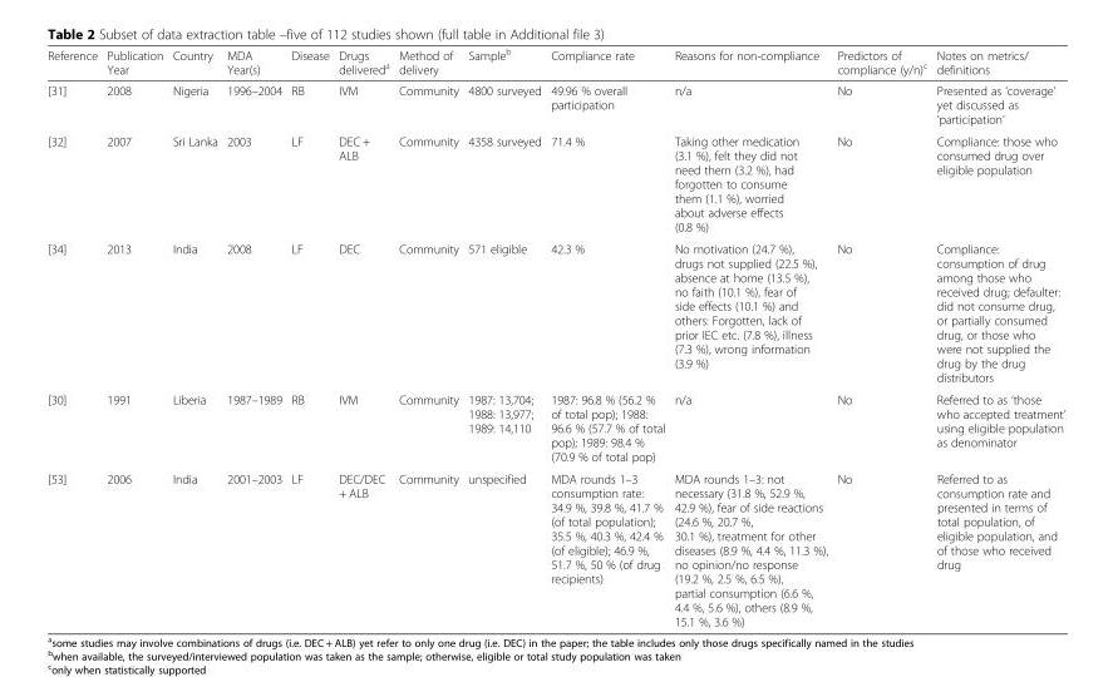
<table><thead><tr><td>Reference</td><td>Publication Year</td><td>Country</td><td>MDA Year(s)</td><td>Disease</td><td>Drugs delivered<sup>a</sup></td><td>Method of delivery</td><td>Sample<sup>b</sup></td><td>Compliance rate</td><td>Reasons for non-compliance</td><td>Predictors of compliance (y/n)<sup>c</sup></td><td>Notes on metrics/ definitions</td></tr></thead><tbody><tr><td>[31]</td><td>2008</td><td>Nigeria</td><td>1996–2004</td><td>RB</td><td>IVM</td><td>Community</td><td>4800 surveyed</td><td>49.96 % overall participation</td><td>n/a</td><td>No</td><td>Presented as ‘coverage’ yet discussed as ‘participation’</td></tr><tr><td>[32]</td><td>2007</td><td>Sri Lanka</td><td>2003</td><td>LF</td><td>DEC + ALB</td><td>Community</td><td>4358 surveyed</td><td>71.4 %</td><td>Taking other medication (3.1 %), felt they did not need them (3.2 %), had forgotten to consume them (1.1 %), worried about adverse effects (0.8 %)</td><td>No</td><td>Compliance: those who consumed drug over eligible population</td></tr><tr><td>[34]</td><td>2013</td><td>India</td><td>2008</td><td>LF</td><td>DEC</td><td>Community</td><td>571 eligible</td><td>42.3 %</td><td>No motivation (24.7 %), drugs not supplied (22.5 %), absence at home (13.5 %), no faith (10.1 %), fear of side effects (10.1 %) and others: Forgotten, lack of prior IEC etc. (7.8 %), illness (7.3 %), wrong information (3.9 %)</td><td>No</td><td>Compliance: consumption of drug among those who received drug; defaulter: did not consume drug, or partially consumed drug, or those who were not supplied the drug by the drug distributors</td></tr><tr><td>[30]</td><td>1991</td><td>Liberia</td><td>1987–1989</td><td>RB</td><td>IVM</td><td>Community</td><td>1987: 13,704; 1988: 13,977; 1989: 14,110</td><td>1987: 96.8 % (56.2 % of total pop); 1988: 96.6 % (57.7 % of total pop); 1989: 98.4 % (70.9 % of total pop)</td><td>n/a</td><td>No</td><td>Referred to as ‘those who accepted treatment’ using eligible population as denominator</td></tr><tr><td>[53]</td><td>2006</td><td>India</td><td>2001–2003</td><td>LF</td><td>DEC/DEC + ALB</td><td>Community</td><td>unspecified</td><td>MDA rounds 1–3 consumption rate: 34.9 %, 39.8 %, 41.7 % (of total population); 35.5 %, 40.3 %, 42.4 % (of eligible); 46.9 %, 51.7 %, 50 % (of drug recipients)</td><td>MDA rounds 1–3: not necessary (31.8 %, 52.9 %, 42.9 %), fear of side reactions (24.6 %, 20.7 %, 30.1 %), treatment for other diseases (8.9 %, 4.4 %, 11.3 %), no opinion/no response (19.2 %, 2.5 %, 6.5 %), partial consumption (6.6 %, 4.4 %, 5.6 %), others (8.9 %, 15.1 %, 3.6 %)</td><td>No</td><td>Referred to as consumption rate and presented in terms of total population, of eligible population, and of those who received drug</td></tr></tbody></table>